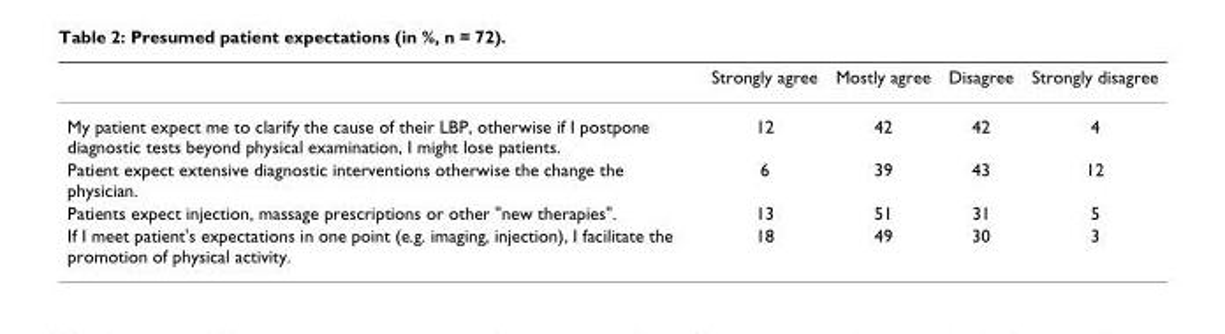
<table><thead><tr><td></td><td>Strongly agree</td><td>Mostly agree</td><td>Disagree</td><td>Strongly disagree</td></tr></thead><tbody><tr><td>My patient expect me to clarify the cause of their LBP, otherwise if I postpone diagnostic tests beyond physical examination, I might lose patients.</td><td>12</td><td>42</td><td>42</td><td>4</td></tr><tr><td>Patient expect extensive diagnostic interventions otherwise the change the physician.</td><td>6</td><td>39</td><td>43</td><td>12</td></tr><tr><td>Patients expect injection, massage prescriptions or other &quot;new therapies&quot;.</td><td>13</td><td>51</td><td>31</td><td>5</td></tr><tr><td>If I meet patient&#x27;s expectations in one point (e.g. imaging, injection), I facilitate the promotion of physical activity.</td><td>18</td><td>49</td><td>30</td><td>3</td></tr></tbody></table>